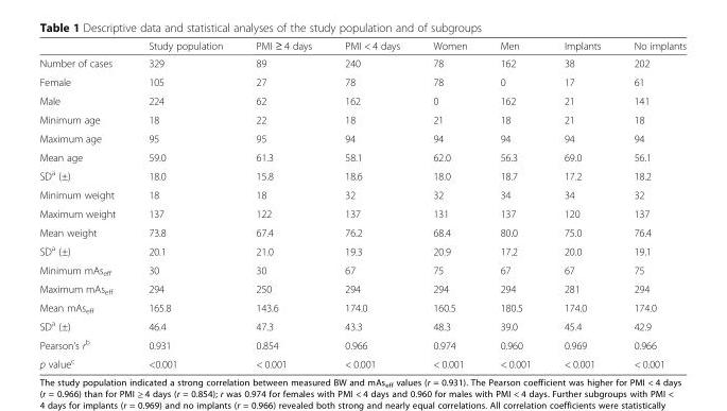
<table><thead><tr><td></td><td>Study population</td><td>PMI ≥ 4 days</td><td>PMI &lt; 4 days</td><td>Women</td><td>Men</td><td>Implants</td><td>No implants</td></tr></thead><tbody><tr><td>Number of cases</td><td>329</td><td>89</td><td>240</td><td>78</td><td>162</td><td>38</td><td>202</td></tr><tr><td>Female</td><td>105</td><td>27</td><td>78</td><td>78</td><td>0</td><td>17</td><td>61</td></tr><tr><td>Male</td><td>224</td><td>62</td><td>162</td><td>0</td><td>162</td><td>21</td><td>141</td></tr><tr><td>Minimum age</td><td>18</td><td>22</td><td>18</td><td>21</td><td>18</td><td>21</td><td>18</td></tr><tr><td>Maximum age</td><td>95</td><td>95</td><td>94</td><td>94</td><td>94</td><td>94</td><td>94</td></tr><tr><td>Mean age</td><td>59.0</td><td>61.3</td><td>58.1</td><td>62.0</td><td>56.3</td><td>69.0</td><td>56.1</td></tr><tr><td>SD<sup>a</sup> (±)</td><td>18.0</td><td>15.8</td><td>18.6</td><td>18.0</td><td>18.7</td><td>17.2</td><td>18.2</td></tr><tr><td>Minimum weight</td><td>18</td><td>18</td><td>32</td><td>32</td><td>34</td><td>34</td><td>32</td></tr><tr><td>Maximum weight</td><td>137</td><td>122</td><td>137</td><td>131</td><td>137</td><td>120</td><td>137</td></tr><tr><td>Mean weight</td><td>73.8</td><td>67.4</td><td>76.2</td><td>68.4</td><td>80.0</td><td>75.0</td><td>76.4</td></tr><tr><td>SD<sup>a</sup> (±)</td><td>20.1</td><td>21.0</td><td>19.3</td><td>20.9</td><td>17.2</td><td>20.0</td><td>19.1</td></tr><tr><td>Minimum mAs<sub>eff</sub></td><td>30</td><td>30</td><td>67</td><td>75</td><td>67</td><td>67</td><td>75</td></tr><tr><td>Maximum mAs<sub>eff</sub></td><td>294</td><td>250</td><td>294</td><td>294</td><td>294</td><td>281</td><td>294</td></tr><tr><td>Mean mAs<sub>eff</sub></td><td>165.8</td><td>143.6</td><td>174.0</td><td>160.5</td><td>180.5</td><td>174.0</td><td>174.0</td></tr><tr><td>SD<sup>a</sup> (±)</td><td>46.4</td><td>47.3</td><td>43.3</td><td>48.3</td><td>39.0</td><td>45.4</td><td>42.9</td></tr><tr><td>Pearson’s r<sup>b</sup></td><td>0.931</td><td>0.854</td><td>0.966</td><td>0.974</td><td>0.960</td><td>0.969</td><td>0.966</td></tr><tr><td>p value<sup>c</sup></td><td>&lt;0.001</td><td>&lt; 0.001</td><td>&lt; 0.001</td><td>&lt; 0.001</td><td>&lt; 0.001</td><td>&lt; 0.001</td><td>&lt; 0.001</td></tr></tbody></table>